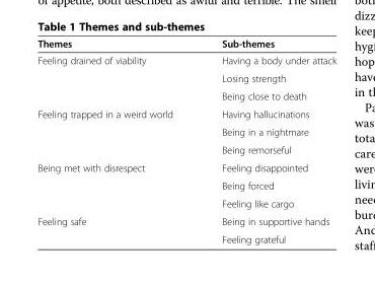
<table><thead><tr><td>Themes</td><td>Sub-themes</td></tr></thead><tbody><tr><td rowspan="3">Feeling drained of viability</td><td>Having a body under attack</td></tr><tr><td>Losing strength</td></tr><tr><td>Being close to death</td></tr><tr><td rowspan="3">Feeling trapped in a weird world</td><td>Having hallucinations</td></tr><tr><td>Being in a nightmare</td></tr><tr><td>Being remorseful</td></tr><tr><td rowspan="3">Being met with disrespect</td><td>Feeling disappointed</td></tr><tr><td>Being forced</td></tr><tr><td>Feeling like cargo</td></tr><tr><td rowspan="2">Feeling safe</td><td>Being in supportive hands</td></tr><tr><td>Feeling grateful</td></tr></tbody></table>